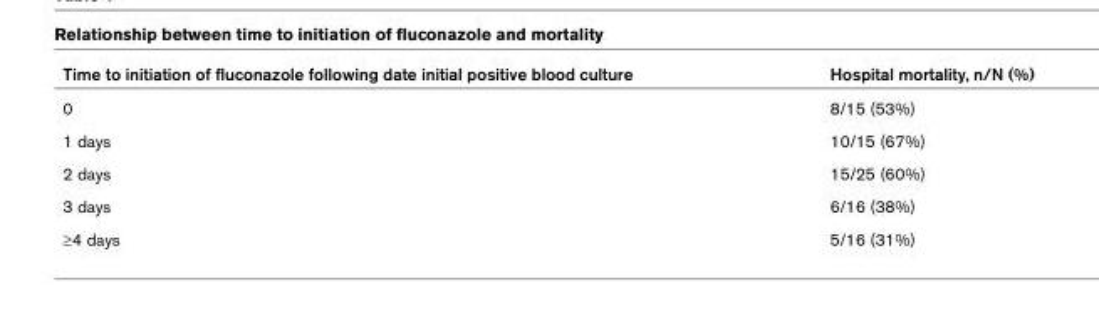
<table><thead><tr><td>Time to initiation of fluconazole following date initial positive blood culture</td><td>Hospital mortality, n/N (%)</td></tr></thead><tbody><tr><td>0</td><td>8/15 (53%)</td></tr><tr><td>1 days</td><td>10/15 (67%)</td></tr><tr><td>2 days</td><td>15/25 (60%)</td></tr><tr><td>3 days</td><td>6/16 (38%)</td></tr><tr><td>≥4 days</td><td>5/16 (31%)</td></tr></tbody></table>